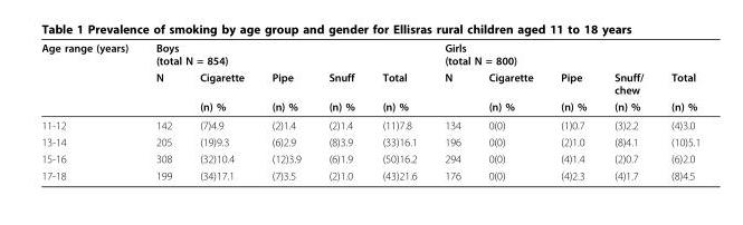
<table><thead><tr><td rowspan="3">Age range (years)</td><td colspan="5">Boys (total N = 854)</td><td colspan="5">Girls (total N = 800)</td></tr><tr><td rowspan="2">N</td><td rowspan="2">Cigarette (n) %</td><td rowspan="2">Pipe (n) %</td><td rowspan="2">Snuff (n) %</td><td rowspan="2">Total (n) %</td><td rowspan="2">N</td><td rowspan="2">Cigarette (n) %</td><td rowspan="2">Pipe (n) %</td><td rowspan="2">Snuff/ chew (n) %</td><td rowspan="2">Total (n) %</td></tr><tr></tr></thead><tbody><tr><td>11-12</td><td>142</td><td>(7)4.9</td><td>(2)1.4</td><td>(2)1.4</td><td>(11)7.8</td><td>134</td><td>0(0)</td><td>(1)0.7</td><td>(3)2.2</td><td>(4)3.0</td></tr><tr><td>13-14</td><td>205</td><td>(19)9.3</td><td>(6)2.9</td><td>(8)3.9</td><td>(33)16.1</td><td>196</td><td>0(0)</td><td>(2)1.0</td><td>(8)4.1</td><td>(10)5.1</td></tr><tr><td>15-16</td><td>308</td><td>(32)10.4</td><td>(12)3.9</td><td>(6)1.9</td><td>(50)16.2</td><td>294</td><td>0(0)</td><td>(4)1.4</td><td>(2)0.7</td><td>(6)2.0</td></tr><tr><td>17-18</td><td>199</td><td>(34)17.1</td><td>(7)3.5</td><td>(2)1.0</td><td>(43)21.6</td><td>176</td><td>0(0)</td><td>(4)2.3</td><td>(4)1.7</td><td>(8)4.5</td></tr></tbody></table>